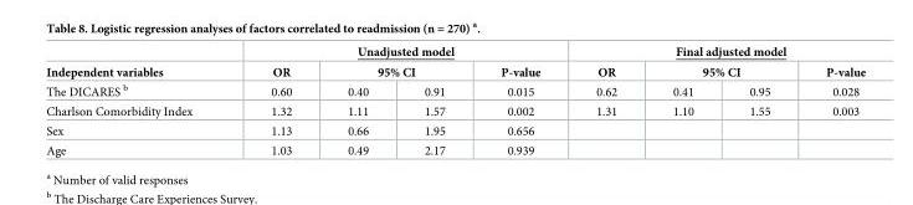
<table><thead><tr><td rowspan="3">Independent variables The DICARES b</td><td colspan="4">Unadjusted model</td><td colspan="4">Final adjusted model</td></tr><tr><td rowspan="2">OR 0.60</td><td colspan="2">95% CI</td><td rowspan="2">P-value 0.015</td><td rowspan="2">OR 0.62</td><td colspan="2">95% CI</td><td rowspan="2">P-value 0.028</td></tr><tr><td>0.40</td><td>0.91</td><td>0.41</td><td>0.95</td></tr></thead><tbody><tr><td>Charlson Comorbidity Index</td><td>1.32</td><td>1.11</td><td>1.57</td><td>0.002</td><td>1.31</td><td>1.10</td><td>1.55</td><td>0.003</td></tr><tr><td>Sex</td><td>1.13</td><td>0.66</td><td>1.95</td><td>0.656</td><td></td><td></td><td></td><td></td></tr><tr><td>Age</td><td>1.03</td><td>0.49</td><td>2.17</td><td>0.939</td><td></td><td></td><td></td><td></td></tr></tbody></table>